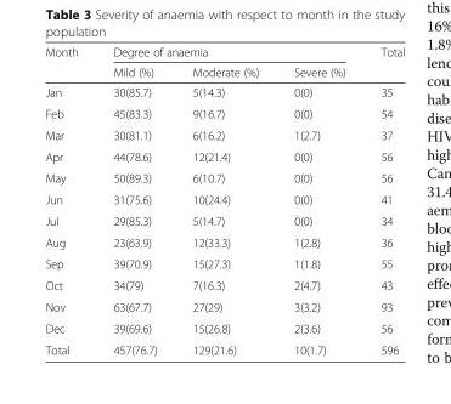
<table><thead><tr><td rowspan="2">Month</td><td colspan="3">Degree of anaemia</td><td rowspan="2">Total</td></tr><tr><td>Mild (%)</td><td>Moderate (%)</td><td>Severe (%)</td></tr></thead><tbody><tr><td>Jan</td><td>30(85.7)</td><td>5(14.3)</td><td>0(0)</td><td>35</td></tr><tr><td>Feb</td><td>45(83.3)</td><td>9(16.7)</td><td>0(0)</td><td>54</td></tr><tr><td>Mar</td><td>30(81.1)</td><td>6(16.2)</td><td>1(2.7)</td><td>37</td></tr><tr><td>Apr</td><td>44(78.6)</td><td>12(21.4)</td><td>0(0)</td><td>56</td></tr><tr><td>May</td><td>50(89.3)</td><td>6(10.7)</td><td>0(0)</td><td>56</td></tr><tr><td>Jun</td><td>31(75.6)</td><td>10(24.4)</td><td>0(0)</td><td>41</td></tr><tr><td>Jul</td><td>29(85.3)</td><td>5(14.7)</td><td>0(0)</td><td>34</td></tr><tr><td>Aug</td><td>23(63.9)</td><td>12(33.3)</td><td>1(2.8)</td><td>36</td></tr><tr><td>Sep</td><td>39(70.9)</td><td>15(27.3)</td><td>1(1.8)</td><td>55</td></tr><tr><td>Oct</td><td>34(79)</td><td>7(16.3)</td><td>2(4.7)</td><td>43</td></tr><tr><td>Nov</td><td>63(67.7)</td><td>27(29)</td><td>3(3.2)</td><td>93</td></tr><tr><td>Dec</td><td>39(69.6)</td><td>15(26.8)</td><td>2(3.6)</td><td>56</td></tr><tr><td>Total</td><td>457(76.7)</td><td>129(21.6)</td><td>10(1.7)</td><td>596</td></tr></tbody></table>